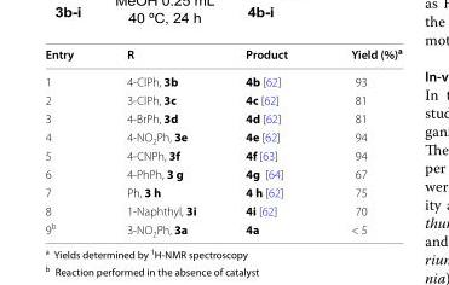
<table><thead><tr><td>Entry</td><td>R</td><td>Product</td><td>Yield (%)<sup>a</sup></td></tr></thead><tbody><tr><td>1</td><td>4-ClPh, 3b</td><td>4b [62]</td><td>93</td></tr><tr><td>2</td><td>3-ClPh, 3c</td><td>4c [62]</td><td>81</td></tr><tr><td>3</td><td>4-BrPh, 3d</td><td>4d [62]</td><td>81</td></tr><tr><td>4</td><td>4-NO<sub>2</sub>Ph, 3e</td><td>4e [62]</td><td>94</td></tr><tr><td>5</td><td>4-CNPh, 3f</td><td>4f [63]</td><td>94</td></tr><tr><td>6</td><td>4-PhPh, 3 g</td><td>4g [64]</td><td>67</td></tr><tr><td>7</td><td>Ph, 3 h</td><td>4 h [62]</td><td>75</td></tr><tr><td>8</td><td>1-Naphthyl, 3i</td><td>4i [62]</td><td>70</td></tr><tr><td>9<sup>b</sup></td><td>3-NO<sub>2</sub>Ph, 3a</td><td>4a</td><td>&lt; 5</td></tr></tbody></table>